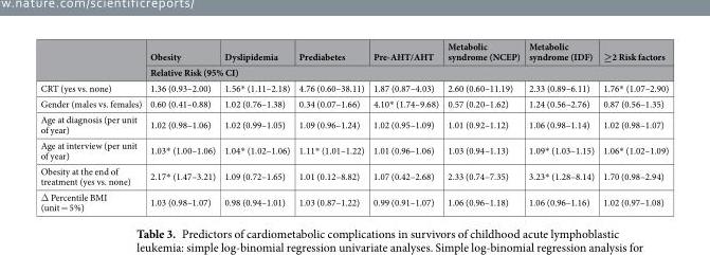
<table><thead><tr><td rowspan="2"></td><td>Obesity</td><td>Dyslipidemia</td><td>Prediabetes</td><td>Pre-AHT/AHT</td><td>Metabolic syndrome (NCEP)</td><td>Metabolic syndrome (IDF)</td><td>≥2 Risk factors</td></tr><tr><td colspan="7">Relative Risk (95% CI)</td></tr></thead><tbody><tr><td>CRT (yes vs. none)</td><td>1.36 (0.93–2.00)</td><td>1.56* (1.11–2.18)</td><td>4.76 (0.60–38.11)</td><td>1.87 (0.87–4.03)</td><td>2.60 (0.60–11.19)</td><td>2.33 (0.89–6.11)</td><td>1.76* (1.07–2.90)</td></tr><tr><td>Gender (males vs. females)</td><td>0.60 (0.41–0.88)</td><td>1.02 (0.76–1.38)</td><td>0.34 (0.07–1.66)</td><td>4.10* (1.74–9.68)</td><td>0.57 (0.20–1.62)</td><td>1.24 (0.56–2.76)</td><td>0.87 (0.56–1.35)</td></tr><tr><td>Age at diagnosis (per unit of year)</td><td>1.02 (0.98–1.06)</td><td>1.02 (0.99–1.05)</td><td>1.09 (0.96–1.24)</td><td>1.02 (0.95–1.09)</td><td>1.01 (0.92–1.12)</td><td>1.06 (0.98–1.14)</td><td>1.02 (0.98–1.07)</td></tr><tr><td>Age at interview (per unit of year)</td><td>1.03* (1.00–1.06)</td><td>1.04* (1.02–1.06)</td><td>1.11* (1.01–1.22)</td><td>1.01 (0.96–1.06)</td><td>1.03 (0.94–1.13)</td><td>1.09* (1.03–1.15)</td><td>1.06* (1.02–1.09)</td></tr><tr><td>Obesity at the end of treatment (yes vs. none)</td><td>2.17* (1.47–3.21)</td><td>1.09 (0.72–1.65)</td><td>1.01 (0.12–8.82)</td><td>1.07 (0.42–2.68)</td><td>2.33 (0.74–7.35)</td><td>3.23* (1.28–8.14)</td><td>1.70 (0.98–2.94)</td></tr><tr><td>Δ Percentile BMI (unit = 5%)</td><td>1.03 (0.98–1.07)</td><td>0.98 (0.94–1.01)</td><td>1.03 (0.87–1.22)</td><td>0.99 (0.91–1.07)</td><td>1.06 (0.96–1.18)</td><td>1.06 (0.96–1.16)</td><td>1.02 (0.97–1.08)</td></tr></tbody></table>